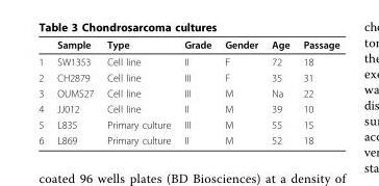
<table><thead><tr><td></td><td>Sample</td><td>Type</td><td>Grade</td><td>Gender</td><td>Age</td><td>Passage</td></tr></thead><tbody><tr><td>1</td><td>SW1353</td><td>Cell line</td><td>II</td><td>F</td><td>72</td><td>18</td></tr><tr><td>2</td><td>CH2879</td><td>Cell line</td><td>III</td><td>F</td><td>35</td><td>31</td></tr><tr><td>3</td><td>OUMS27</td><td>Cell line</td><td>III</td><td>M</td><td>Na</td><td>22</td></tr><tr><td>4</td><td>JJ012</td><td>Cell line</td><td>II</td><td>M</td><td>39</td><td>10</td></tr><tr><td>5</td><td>L835</td><td>Primary culture</td><td>III</td><td>M</td><td>55</td><td>15</td></tr><tr><td>6</td><td>L869</td><td>Primary culture</td><td>II</td><td>M</td><td>52</td><td>18</td></tr></tbody></table>